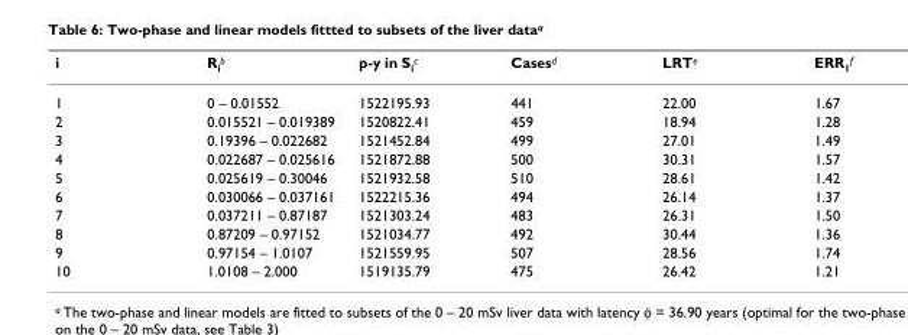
<table><thead><tr><td>i</td><td>R<sub>i</sub><sup>b</sup></td><td>p-y in S<sub>i</sub><sup>c</sup></td><td>Cases<sup>d</sup></td><td>LRT<sup>e</sup></td><td>ERR<sub>1</sub><sup>f</sup></td></tr></thead><tbody><tr><td>1</td><td>0 – 0.01552</td><td>1522195.93</td><td>441</td><td>22.00</td><td>1.67</td></tr><tr><td>2</td><td>0.015521 – 0.019389</td><td>1520822.41</td><td>459</td><td>18.94</td><td>1.28</td></tr><tr><td>3</td><td>0.19396 – 0.022682</td><td>1521452.84</td><td>499</td><td>27.01</td><td>1.49</td></tr><tr><td>4</td><td>0.022687 – 0.025616</td><td>1521872.88</td><td>500</td><td>30.31</td><td>1.57</td></tr><tr><td>5</td><td>0.025619 – 0.30046</td><td>1521932.58</td><td>510</td><td>28.61</td><td>1.42</td></tr><tr><td>6</td><td>0.030066 – 0.037161</td><td>1522215.36</td><td>494</td><td>26.14</td><td>1.37</td></tr><tr><td>7</td><td>0.037211 – 0.87187</td><td>1521303.24</td><td>483</td><td>26.31</td><td>1.50</td></tr><tr><td>8</td><td>0.87209 – 0.97152</td><td>1521034.77</td><td>492</td><td>30.44</td><td>1.36</td></tr><tr><td>9</td><td>0.97154 – 1.0107</td><td>1521559.95</td><td>507</td><td>28.56</td><td>1.74</td></tr><tr><td>10</td><td>1.0108 – 2.000</td><td>1519135.79</td><td>475</td><td>26.42</td><td>1.21</td></tr></tbody></table>